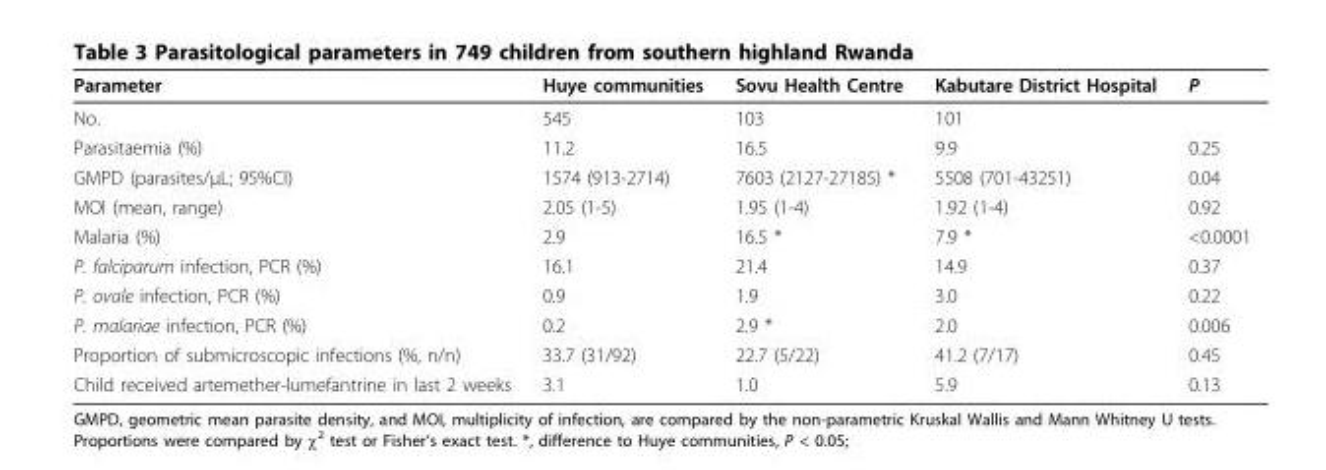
<table><thead><tr><td>Parameter</td><td>Huye communities</td><td>Sovu Health Centre</td><td>Kabutare District Hospital</td><td>P</td></tr></thead><tbody><tr><td>No.</td><td>545</td><td>103</td><td>101</td><td></td></tr><tr><td>Parasitaemia (%)</td><td>11.2</td><td>16.5</td><td>9.9</td><td>0.25</td></tr><tr><td>GMPD (parasites/μL; 95%CI)</td><td>1574 (913-2714)</td><td>7603 (2127-27185) *</td><td>5508 (701-43251)</td><td>0.04</td></tr><tr><td>MOI (mean, range)</td><td>2.05 (1-5)</td><td>1.95 (1-4)</td><td>1.92 (1-4)</td><td>0.92</td></tr><tr><td>Malaria (%)</td><td>2.9</td><td>16.5 *</td><td>7.9 *</td><td>&lt;0.0001</td></tr><tr><td>P. falciparum infection, PCR (%)</td><td>16.1</td><td>21.4</td><td>14.9</td><td>0.37</td></tr><tr><td>P. ovale infection, PCR (%)</td><td>0.9</td><td>1.9</td><td>3.0</td><td>0.22</td></tr><tr><td>P. malariae infection, PCR (%)</td><td>0.2</td><td>2.9 *</td><td>2.0</td><td>0.006</td></tr><tr><td>Proportion of submicroscopic infections (%, n/n)</td><td>33.7 (31/92)</td><td>22.7 (5/22)</td><td>41.2 (7/17)</td><td>0.45</td></tr><tr><td>Child received artemether-lumefantrine in last 2 weeks</td><td>3.1</td><td>1.0</td><td>5.9</td><td>0.13</td></tr></tbody></table>